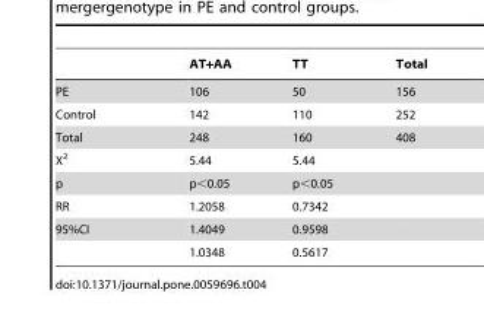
<table><thead><tr><td></td><td>AT+AA</td><td>TT</td><td>Total</td></tr></thead><tbody><tr><td>PE</td><td>106</td><td>50</td><td>156</td></tr><tr><td>Control</td><td>142</td><td>110</td><td>252</td></tr><tr><td>Total</td><td>248</td><td>160</td><td>408</td></tr><tr><td>X<sup>2</sup></td><td>5.44</td><td>5.44</td><td></td></tr><tr><td>p</td><td>p&lt;0.05</td><td>p&lt;0.05</td><td></td></tr><tr><td>RR</td><td>1.2058</td><td>0.7342</td><td></td></tr><tr><td rowspan="2">95%CI</td><td>1.4049</td><td>0.9598</td><td></td></tr><tr><td>1.0348</td><td>0.5617</td><td></td></tr></tbody></table>